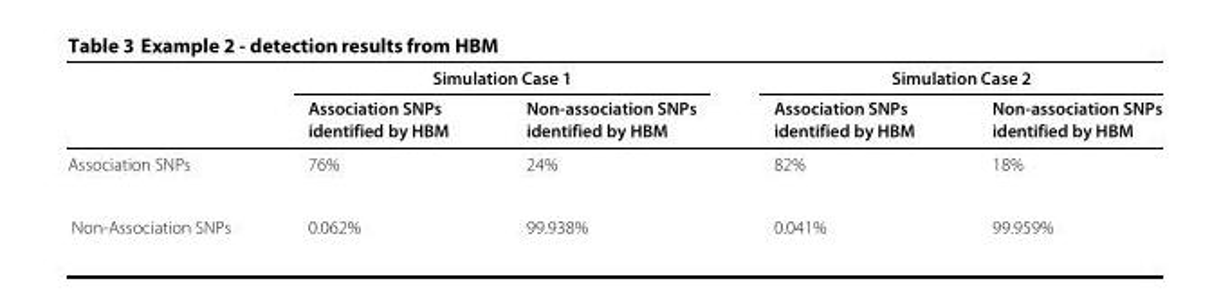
<table><thead><tr><td rowspan="3"></td><td colspan="2">Simulation Case 1</td><td colspan="2">Simulation Case 2</td></tr><tr><td rowspan="2">Association SNPs identified by HBM</td><td rowspan="2">Non-association SNPs identified by HBM</td><td rowspan="2">Association SNPs identified by HBM</td><td rowspan="2">Non-association SNPs identified by HBM</td></tr><tr></tr></thead><tbody><tr><td>Association SNPs</td><td>76%</td><td>24%</td><td>82%</td><td>18%</td></tr><tr><td>Non-Association SNPs</td><td>0.062%</td><td>99.938%</td><td>0.041%</td><td>99.959%</td></tr></tbody></table>